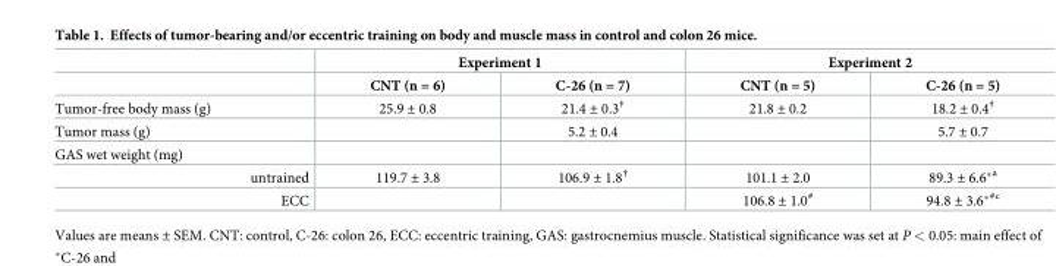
<table><thead><tr><td rowspan="2"></td><td colspan="2">Experiment 1</td><td colspan="2">Experiment 2</td></tr><tr><td>CNT (n = 6)</td><td>C-26 (n = 7)</td><td>CNT (n = 5)</td><td>C-26 (n = 5)</td></tr></thead><tbody><tr><td>Tumor-free body mass (g)</td><td>25.9 ± 0.8</td><td>21.4 ± 0.3<sup>†</sup></td><td>21.8 ± 0.2</td><td>18.2 ± 0.4<sup>†</sup></td></tr><tr><td>Tumor mass (g)</td><td></td><td>5.2 ± 0.4</td><td></td><td>5.7 ± 0.7</td></tr><tr><td colspan="5">GAS wet weight (mg)</td></tr><tr><td>untrained</td><td>119.7 ± 3.8</td><td>106.9 ± 1.8<sup>†</sup></td><td>101.1 ± 2.0</td><td>89.3 ± 6.6*<sup>a</sup></td></tr><tr><td>ECC</td><td></td><td></td><td>106.8 ± 1.0<sup>#</sup></td><td>94.8 ± 3.6*<sup>#c</sup></td></tr></tbody></table>